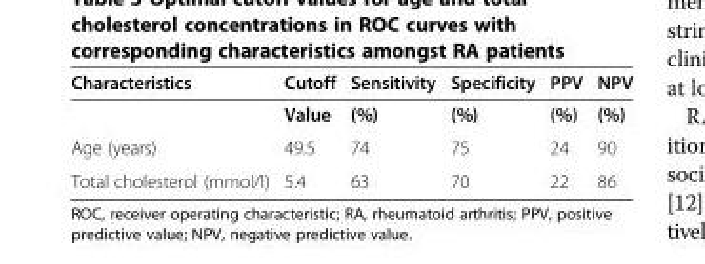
<table><thead><tr><td>Characteristics</td><td>Cutoff</td><td>Sensitivity</td><td>Specificity</td><td>PPV</td><td>NPV</td></tr></thead><tbody><tr><td></td><td>Value</td><td>(%)</td><td>(%)</td><td>(%)</td><td>(%)</td></tr><tr><td>Age (years)</td><td>49.5</td><td>74</td><td>75</td><td>24</td><td>90</td></tr><tr><td>Total cholesterol (mmol/l)</td><td>5.4</td><td>63</td><td>70</td><td>22</td><td>86</td></tr></tbody></table>